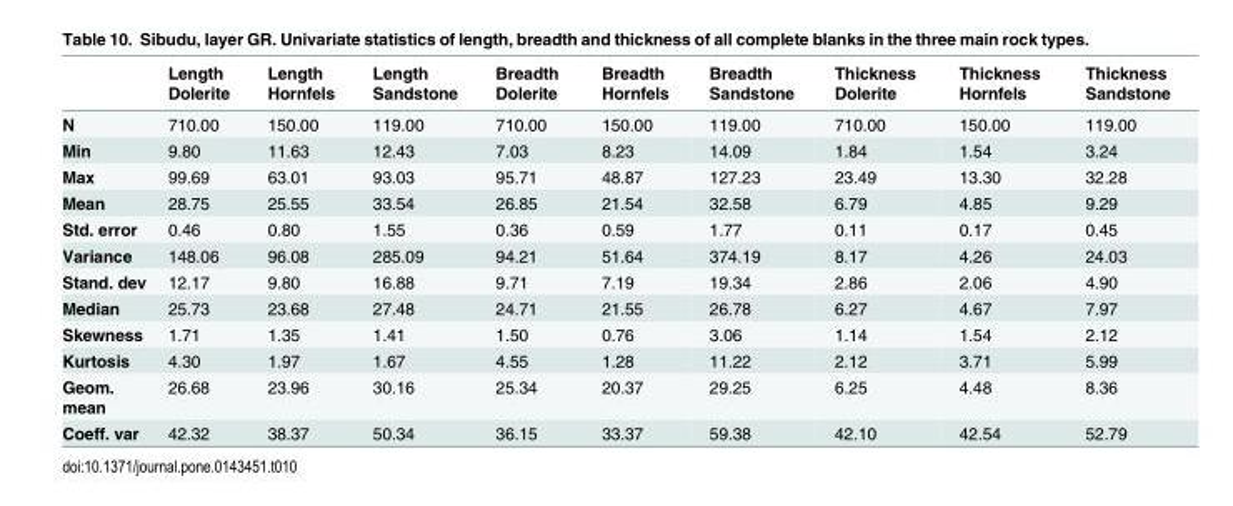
<table><thead><tr><td></td><td>Length Dolerite</td><td>Length Hornfels</td><td>Length Sandstone</td><td>Breadth Dolerite</td><td>Breadth Hornfels</td><td>Breadth Sandstone</td><td>Thickness Dolerite</td><td>Thickness Hornfels</td><td>Thickness Sandstone</td></tr></thead><tbody><tr><td>N</td><td>710.00</td><td>150.00</td><td>119.00</td><td>710.00</td><td>150.00</td><td>119.00</td><td>710.00</td><td>150.00</td><td>119.00</td></tr><tr><td>Min</td><td>9.80</td><td>11.63</td><td>12.43</td><td>7.03</td><td>8.23</td><td>14.09</td><td>1.84</td><td>1.54</td><td>3.24</td></tr><tr><td>Max</td><td>99.69</td><td>63.01</td><td>93.03</td><td>95.71</td><td>48.87</td><td>127.23</td><td>23.49</td><td>13.30</td><td>32.28</td></tr><tr><td>Mean</td><td>28.75</td><td>25.55</td><td>33.54</td><td>26.85</td><td>21.54</td><td>32.58</td><td>6.79</td><td>4.85</td><td>9.29</td></tr><tr><td>Std. error</td><td>0.46</td><td>0.80</td><td>1.55</td><td>0.36</td><td>0.59</td><td>1.77</td><td>0.11</td><td>0.17</td><td>0.45</td></tr><tr><td>Variance</td><td>148.06</td><td>96.08</td><td>285.09</td><td>94.21</td><td>51.64</td><td>374.19</td><td>8.17</td><td>4.26</td><td>24.03</td></tr><tr><td>Stand. dev</td><td>12.17</td><td>9.80</td><td>16.88</td><td>9.71</td><td>7.19</td><td>19.34</td><td>2.86</td><td>2.06</td><td>4.90</td></tr><tr><td>Median</td><td>25.73</td><td>23.68</td><td>27.48</td><td>24.71</td><td>21.55</td><td>26.78</td><td>6.27</td><td>4.67</td><td>7.97</td></tr><tr><td>Skewness</td><td>1.71</td><td>1.35</td><td>1.41</td><td>1.50</td><td>0.76</td><td>3.06</td><td>1.14</td><td>1.54</td><td>2.12</td></tr><tr><td>Kurtosis</td><td>4.30</td><td>1.97</td><td>1.67</td><td>4.55</td><td>1.28</td><td>11.22</td><td>2.12</td><td>3.71</td><td>5.99</td></tr><tr><td>Geom. mean</td><td>26.68</td><td>23.96</td><td>30.16</td><td>25.34</td><td>20.37</td><td>29.25</td><td>6.25</td><td>4.48</td><td>8.36</td></tr><tr><td>Coeff. var</td><td>42.32</td><td>38.37</td><td>50.34</td><td>36.15</td><td>33.37</td><td>59.38</td><td>42.10</td><td>42.54</td><td>52.79</td></tr></tbody></table>